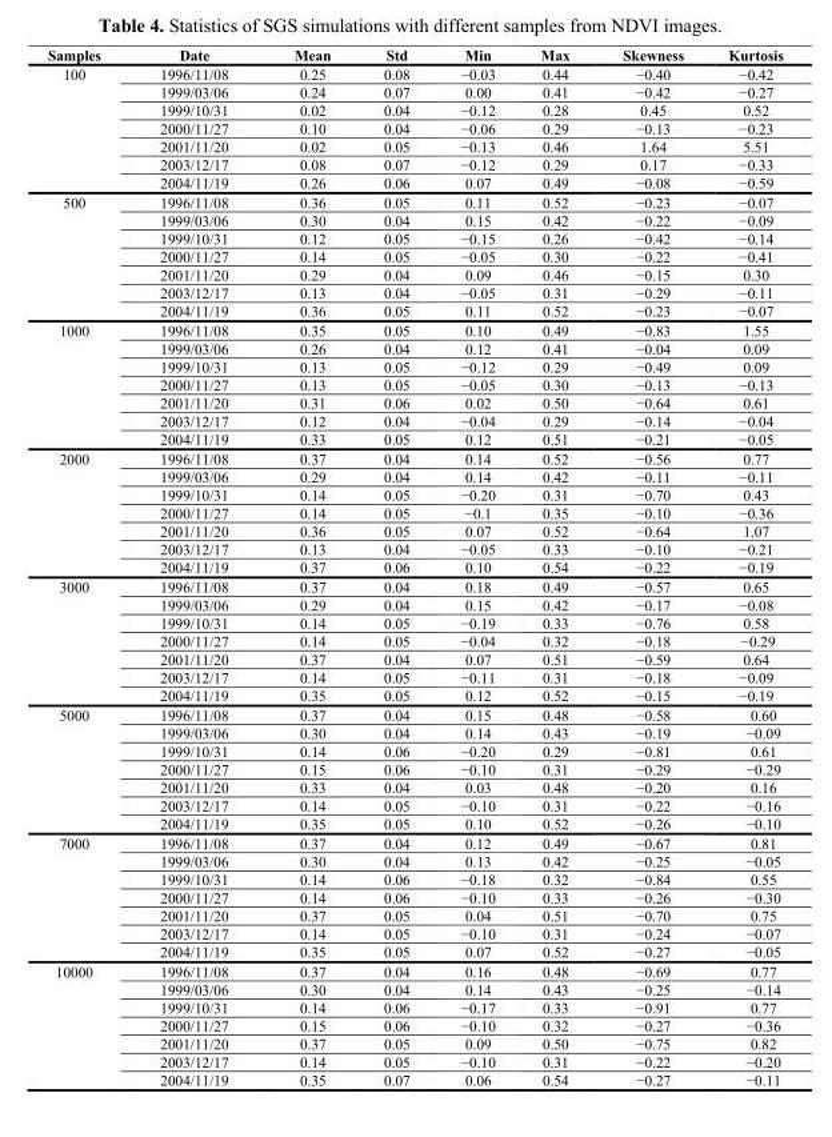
<table><thead><tr><td>Samples</td><td>Date</td><td>Mean</td><td>Std</td><td>Min</td><td>Max</td><td>Skewness</td><td>Kurtosis</td></tr></thead><tbody><tr><td rowspan="7">100</td><td>1996/11/08</td><td>0.25</td><td>0.08</td><td>−0.03</td><td>0.44</td><td>−0.40</td><td>−0.42</td></tr><tr><td>1999/03/06</td><td>0.24</td><td>0.07</td><td>0.00</td><td>0.41</td><td>−0.42</td><td>−0.27</td></tr><tr><td>1999/10/31</td><td>0.02</td><td>0.04</td><td>−0.12</td><td>0.28</td><td>0.45</td><td>0.52</td></tr><tr><td>2000/11/27</td><td>0.10</td><td>0.04</td><td>−0.06</td><td>0.29</td><td>−0.13</td><td>−0.23</td></tr><tr><td>2001/11/20</td><td>0.02</td><td>0.05</td><td>−0.13</td><td>0.46</td><td>1.64</td><td>5.51</td></tr><tr><td>2003/12/17</td><td>0.08</td><td>0.07</td><td>−0.12</td><td>0.29</td><td>0.17</td><td>−0.33</td></tr><tr><td>2004/11/19</td><td>0.26</td><td>0.06</td><td>0.07</td><td>0.49</td><td>−0.08</td><td>−0.59</td></tr><tr><td rowspan="7">500</td><td>1996/11/08</td><td>0.36</td><td>0.05</td><td>0.11</td><td>0.52</td><td>−0.23</td><td>−0.07</td></tr><tr><td>1999/03/06</td><td>0.30</td><td>0.04</td><td>0.15</td><td>0.42</td><td>−0.22</td><td>−0.09</td></tr><tr><td>1999/10/31</td><td>0.12</td><td>0.05</td><td>−0.15</td><td>0.26</td><td>−0.42</td><td>−0.14</td></tr><tr><td>2000/11/27</td><td>0.14</td><td>0.05</td><td>−0.05</td><td>0.30</td><td>−0.22</td><td>−0.41</td></tr><tr><td>2001/11/20</td><td>0.29</td><td>0.04</td><td>0.09</td><td>0.46</td><td>−0.15</td><td>0.30</td></tr><tr><td>2003/12/17</td><td>0.13</td><td>0.04</td><td>−0.05</td><td>0.31</td><td>−0.29</td><td>−0.11</td></tr><tr><td>2004/11/19</td><td>0.36</td><td>0.05</td><td>0.11</td><td>0.52</td><td>−0.23</td><td>−0.07</td></tr><tr><td rowspan="7">1000</td><td>1996/11/08</td><td>0.35</td><td>0.05</td><td>0.10</td><td>0.49</td><td>−0.83</td><td>1.55</td></tr><tr><td>1999/03/06</td><td>0.26</td><td>0.04</td><td>0.12</td><td>0.41</td><td>−0.04</td><td>0.09</td></tr><tr><td>1999/10/31</td><td>0.13</td><td>0.05</td><td>−0.12</td><td>0.29</td><td>−0.49</td><td>0.09</td></tr><tr><td>2000/11/27</td><td>0.13</td><td>0.05</td><td>−0.05</td><td>0.30</td><td>−0.13</td><td>−0.13</td></tr><tr><td>2001/11/20</td><td>0.31</td><td>0.06</td><td>0.02</td><td>0.50</td><td>−0.64</td><td>0.61</td></tr><tr><td>2003/12/17</td><td>0.12</td><td>0.04</td><td>−0.04</td><td>0.29</td><td>−0.14</td><td>−0.04</td></tr><tr><td>2004/11/19</td><td>0.33</td><td>0.05</td><td>0.12</td><td>0.51</td><td>−0.21</td><td>−0.05</td></tr><tr><td rowspan="7">2000</td><td>1996/11/08</td><td>0.37</td><td>0.04</td><td>0.14</td><td>0.52</td><td>−0.56</td><td>0.77</td></tr><tr><td>1999/03/06</td><td>0.29</td><td>0.04</td><td>0.14</td><td>0.42</td><td>−0.11</td><td>−0.11</td></tr><tr><td>1999/10/31</td><td>0.14</td><td>0.05</td><td>−0.20</td><td>0.31</td><td>−0.70</td><td>0.43</td></tr><tr><td>2000/11/27</td><td>0.14</td><td>0.05</td><td>−0.1</td><td>0.35</td><td>−0.10</td><td>−0.36</td></tr><tr><td>2001/11/20</td><td>0.36</td><td>0.05</td><td>0.07</td><td>0.52</td><td>−0.64</td><td>1.07</td></tr><tr><td>2003/12/17</td><td>0.13</td><td>0.04</td><td>−0.05</td><td>0.33</td><td>−0.10</td><td>−0.21</td></tr><tr><td>2004/11/19</td><td>0.37</td><td>0.06</td><td>0.10</td><td>0.54</td><td>−0.22</td><td>−0.19</td></tr><tr><td rowspan="7">3000</td><td>1996/11/08</td><td>0.37</td><td>0.04</td><td>0.18</td><td>0.49</td><td>−0.57</td><td>0.65</td></tr><tr><td>1999/03/06</td><td>0.29</td><td>0.04</td><td>0.15</td><td>0.42</td><td>−0.17</td><td>−0.08</td></tr><tr><td>1999/10/31</td><td>0.14</td><td>0.05</td><td>−0.19</td><td>0.33</td><td>−0.76</td><td>0.58</td></tr><tr><td>2000/11/27</td><td>0.14</td><td>0.05</td><td>−0.04</td><td>0.32</td><td>−0.18</td><td>−0.29</td></tr><tr><td>2001/11/20</td><td>0.37</td><td>0.04</td><td>0.07</td><td>0.51</td><td>−0.59</td><td>0.64</td></tr><tr><td>2003/12/17</td><td>0.14</td><td>0.05</td><td>−0.11</td><td>0.31</td><td>−0.18</td><td>−0.09</td></tr><tr><td>2004/11/19</td><td>0.35</td><td>0.05</td><td>0.12</td><td>0.52</td><td>−0.15</td><td>−0.19</td></tr><tr><td rowspan="7">5000</td><td>1996/11/08</td><td>0.37</td><td>0.04</td><td>0.15</td><td>0.48</td><td>−0.58</td><td>0.60</td></tr><tr><td>1999/03/06</td><td>0.30</td><td>0.04</td><td>0.14</td><td>0.43</td><td>−0.19</td><td>−0.09</td></tr><tr><td>1999/10/31</td><td>0.14</td><td>0.06</td><td>−0.20</td><td>0.29</td><td>−0.81</td><td>0.61</td></tr><tr><td>2000/11/27</td><td>0.15</td><td>0.06</td><td>−0.10</td><td>0.31</td><td>−0.29</td><td>−0.29</td></tr><tr><td>2001/11/20</td><td>0.33</td><td>0.04</td><td>0.03</td><td>0.48</td><td>−0.20</td><td>0.16</td></tr><tr><td>2003/12/17</td><td>0.14</td><td>0.05</td><td>−0.10</td><td>0.31</td><td>−0.22</td><td>−0.16</td></tr><tr><td>2004/11/19</td><td>0.35</td><td>0.05</td><td>0.10</td><td>0.52</td><td>−0.26</td><td>−0.10</td></tr><tr><td rowspan="7">7000</td><td>1996/11/08</td><td>0.37</td><td>0.04</td><td>0.12</td><td>0.49</td><td>−0.67</td><td>0.81</td></tr><tr><td>1999/03/06</td><td>0.30</td><td>0.04</td><td>0.13</td><td>0.42</td><td>−0.25</td><td>−0.05</td></tr><tr><td>1999/10/31</td><td>0.14</td><td>0.06</td><td>−0.18</td><td>0.32</td><td>−0.84</td><td>0.55</td></tr><tr><td>2000/11/27</td><td>0.14</td><td>0.06</td><td>−0.10</td><td>0.33</td><td>−0.26</td><td>−0.30</td></tr><tr><td>2001/11/20</td><td>0.37</td><td>0.05</td><td>0.04</td><td>0.51</td><td>−0.70</td><td>0.75</td></tr><tr><td>2003/12/17</td><td>0.14</td><td>0.05</td><td>−0.10</td><td>0.31</td><td>−0.24</td><td>−0.07</td></tr><tr><td>2004/11/19</td><td>0.35</td><td>0.05</td><td>0.07</td><td>0.52</td><td>−0.27</td><td>−0.05</td></tr><tr><td rowspan="7">10000</td><td>1996/11/08</td><td>0.37</td><td>0.04</td><td>0.16</td><td>0.48</td><td>−0.69</td><td>0.77</td></tr><tr><td>1999/03/06</td><td>0.30</td><td>0.04</td><td>0.14</td><td>0.43</td><td>−0.25</td><td>−0.14</td></tr><tr><td>1999/10/31</td><td>0.14</td><td>0.06</td><td>−0.17</td><td>0.33</td><td>−0.91</td><td>0.77</td></tr><tr><td>2000/11/27</td><td>0.15</td><td>0.06</td><td>−0.10</td><td>0.32</td><td>−0.27</td><td>−0.36</td></tr><tr><td>2001/11/20</td><td>0.37</td><td>0.05</td><td>0.09</td><td>0.50</td><td>−0.75</td><td>0.82</td></tr><tr><td>2003/12/17</td><td>0.14</td><td>0.05</td><td>−0.10</td><td>0.31</td><td>−0.22</td><td>−0.20</td></tr><tr><td>2004/11/19</td><td>0.35</td><td>0.07</td><td>0.06</td><td>0.54</td><td>−0.27</td><td>−0.11</td></tr></tbody></table>